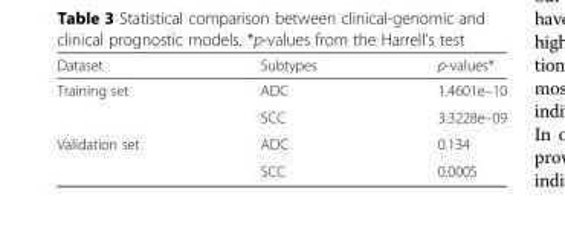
<table><thead><tr><td>Dataset</td><td>Subtypes</td><td>p-values*</td></tr></thead><tbody><tr><td rowspan="2">Training set</td><td>ADC</td><td>1.4601e–10</td></tr><tr><td>SCC</td><td>3.3228e–09</td></tr><tr><td rowspan="2">Validation set</td><td>ADC</td><td>0.134</td></tr><tr><td>SCC</td><td>0.0005</td></tr></tbody></table>